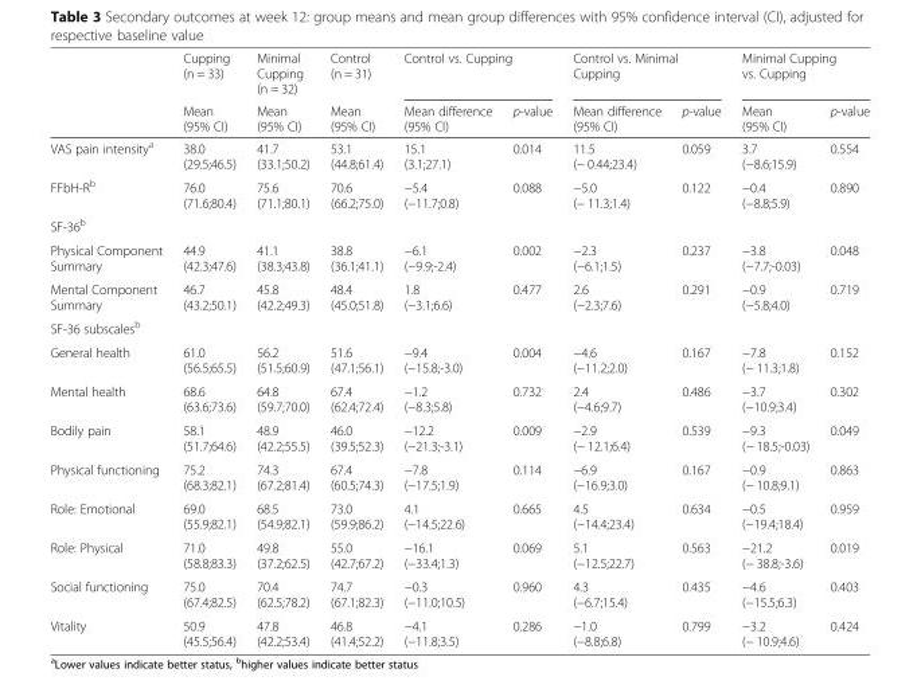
<table><thead><tr><td rowspan="2"></td><td rowspan="2">Cupping (n = 33) Mean (95% CI)</td><td rowspan="2">Minimal Cupping (n = 32) Mean (95% CI)</td><td rowspan="2">Control (n = 31) Mean (95% CI)</td><td colspan="2">Control vs. Cupping</td><td colspan="2">Control vs. Minimal Cupping</td><td colspan="2">Minimal Cupping vs. Cupping</td></tr><tr><td>Mean difference (95% CI)</td><td>p-value</td><td>Mean difference (95% CI)</td><td>p-value</td><td>Mean (95% CI)</td><td>p-value</td></tr></thead><tbody><tr><td>VAS pain intensity<sup>a</sup></td><td>38.0 (29.5;46.5)</td><td>41.7 (33.1;50.2)</td><td>53.1 (44.8;61.4)</td><td>15.1 (3.1;27.1)</td><td>0.014</td><td>11.5 (− 0.44;23.4)</td><td>0.059</td><td>3.7 (−8.6;15.9)</td><td>0.554</td></tr><tr><td>FFbH-R<sup>b</sup></td><td>76.0 (71.6;80.4)</td><td>75.6 (71.1;80.1)</td><td>70.6 (66.2;75.0)</td><td>−5.4 (−11.7;0.8)</td><td>0.088</td><td>−5.0 (− 11.3;1.4)</td><td>0.122</td><td>−0.4 (−8.8;5.9)</td><td>0.890</td></tr><tr><td colspan="10">SF-36<sup>b</sup></td></tr><tr><td>Physical Component Summary</td><td>44.9 (42.3;47.6)</td><td>41.1 (38.3;43.8)</td><td>38.8 (36.1;41.1)</td><td>−6.1 (−9.9;-2.4)</td><td>0.002</td><td>−2.3 (−6.1;1.5)</td><td>0.237</td><td>−3.8 (−7.7;-0.03)</td><td>0.048</td></tr><tr><td>Mental Component Summary</td><td>46.7 (43.2;50.1)</td><td>45.8 (42.2;49.3)</td><td>48.4 (45.0;51.8)</td><td>1.8 (−3.1;6.6)</td><td>0.477</td><td>2.6 (−2.3;7.6)</td><td>0.291</td><td>−0.9 (−5.8;4.0)</td><td>0.719</td></tr><tr><td colspan="10">SF-36 subscales<sup>b</sup></td></tr><tr><td>General health</td><td>61.0 (56.5;65.5)</td><td>56.2 (51.5;60.9)</td><td>51.6 (47.1;56.1)</td><td>−9.4 (−15.8;-3.0)</td><td>0.004</td><td>−4.6 (−11.2;2.0)</td><td>0.167</td><td>−7.8 (− 11.3;1.8)</td><td>0.152</td></tr><tr><td>Mental health</td><td>68.6 (63.6;73.6)</td><td>64.8 (59.7;70.0)</td><td>67.4 (62.4;72.4)</td><td>−1.2 (−8.3;5.8)</td><td>0.732</td><td>2.4 (−4.6;9.7)</td><td>0.486</td><td>−3.7 (−10.9;3.4)</td><td>0.302</td></tr><tr><td>Bodily pain</td><td>58.1 (51.7;64.6)</td><td>48.9 (42.2;55.5)</td><td>46.0 (39.5;52.3)</td><td>−12.2 (−21.3;-3.1)</td><td>0.009</td><td>−2.9 (− 12.1;6.4)</td><td>0.539</td><td>−9.3 (− 18.5;-0.03)</td><td>0.049</td></tr><tr><td>Physical functioning</td><td>75.2 (68.3;82.1)</td><td>74.3 (67.2;81.4)</td><td>67.4 (60.5;74.3)</td><td>−7.8 (−17.5;1.9)</td><td>0.114</td><td>−6.9 (−16.9;3.0)</td><td>0.167</td><td>−0.9 (− 10.8;9.1)</td><td>0.863</td></tr><tr><td>Role: Emotional</td><td>69.0 (55.9;82.1)</td><td>68.5 (54.9;82.1)</td><td>73.0 (59.9;86.2)</td><td>4.1 (−14.5;22.6)</td><td>0.665</td><td>4.5 (−14.4;23.4)</td><td>0.634</td><td>−0.5 (−19.4;18.4)</td><td>0.959</td></tr><tr><td>Role: Physical</td><td>71.0 (58.8;83.3)</td><td>49.8 (37.2;62.5)</td><td>55.0 (42.7;67.2)</td><td>−16.1 (−33.4;1.3)</td><td>0.069</td><td>5.1 (−12.5;22.7)</td><td>0.563</td><td>−21.2 (− 38.8;-3.6)</td><td>0.019</td></tr><tr><td>Social functioning</td><td>75.0 (67.4;82.5)</td><td>70.4 (62.5;78.2)</td><td>74.7 (67.1;82.3)</td><td>−0.3 (−11.0;10.5)</td><td>0.960</td><td>4.3 (−6.7;15.4)</td><td>0.435</td><td>−4.6 (−15.5;6.3)</td><td>0.403</td></tr><tr><td>Vitality</td><td>50.9 (45.5;56.4)</td><td>47.8 (42.2;53.4)</td><td>46.8 (41.4;52.2)</td><td>−4.1 (−11.8;3.5)</td><td>0.286</td><td>−1.0 (−8.8;6.8)</td><td>0.799</td><td>−3.2 (− 10.9;4.6)</td><td>0.424</td></tr></tbody></table>